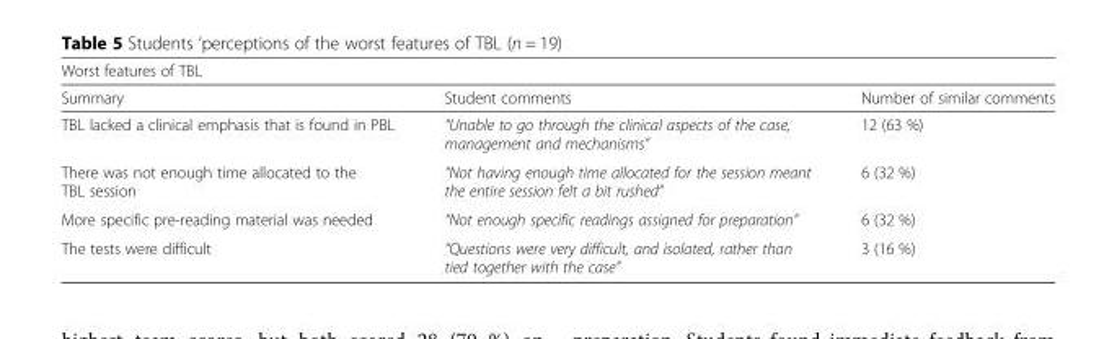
<table><thead><tr><td colspan="3">Worst features of TBL</td></tr><tr><td>Summary</td><td>Student comments</td><td>Number of similar comments</td></tr></thead><tbody><tr><td>TBL lacked a clinical emphasis that is found in PBL</td><td>“Unable to go through the clinical aspects of the case, management and mechanisms”</td><td>12 (63 %)</td></tr><tr><td>There was not enough time allocated to the TBL session</td><td>“Not having enough time allocated for the session meant the entire session felt a bit rushed”</td><td>6 (32 %)</td></tr><tr><td>More specific pre-reading material was needed</td><td>“Not enough specific readings assigned for preparation”</td><td>6 (32 %)</td></tr><tr><td>The tests were difficult</td><td>“Questions were very difficult, and isolated, rather than tied together with the case”</td><td>3 (16 %)</td></tr></tbody></table>